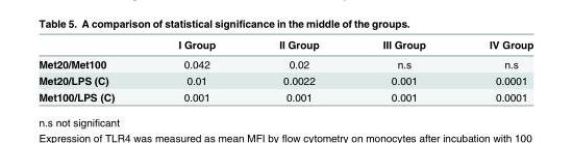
<table><thead><tr><td></td><td>I Group</td><td>II Group</td><td>III Group</td><td>IV Group</td></tr></thead><tbody><tr><td>Met20/Met100</td><td>0.042</td><td>0.02</td><td>n.s</td><td>n.s</td></tr><tr><td>Met20/LPS (C)</td><td>0.01</td><td>0.0022</td><td>0.001</td><td>0.0001</td></tr><tr><td>Met100/LPS (C)</td><td>0.001</td><td>0.001</td><td>0.001</td><td>0.0001</td></tr></tbody></table>